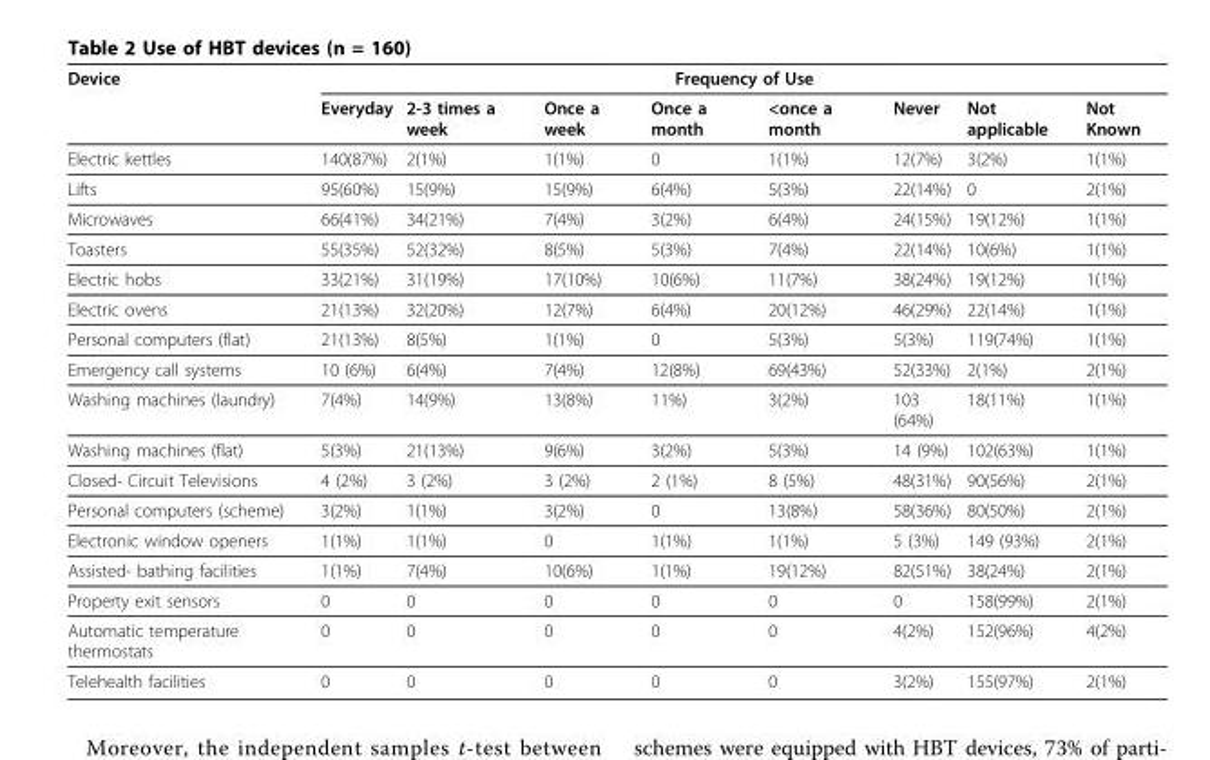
<table><thead><tr><td rowspan="2">Device</td><td colspan="8">Frequency of Use</td></tr><tr><td>Everyday</td><td>2-3 times a week</td><td>Once a week</td><td>Once a month</td><td>&lt;once a month</td><td>Never</td><td>Not applicable</td><td>Not Known</td></tr></thead><tbody><tr><td>Electric kettles</td><td>140(87%)</td><td>2(1%)</td><td>1(1%)</td><td>0</td><td>1(1%)</td><td>12(7%)</td><td>3(2%)</td><td>1(1%)</td></tr><tr><td>Lifts</td><td>95(60%)</td><td>15(9%)</td><td>15(9%)</td><td>6(4%)</td><td>5(3%)</td><td>22(14%)</td><td>0</td><td>2(1%)</td></tr><tr><td>Microwaves</td><td>66(41%)</td><td>34(21%)</td><td>7(4%)</td><td>3(2%)</td><td>6(4%)</td><td>24(15%)</td><td>19(12%)</td><td>1(1%)</td></tr><tr><td>Toasters</td><td>55(35%)</td><td>52(32%)</td><td>8(5%)</td><td>5(3%)</td><td>7(4%)</td><td>22(14%)</td><td>10(6%)</td><td>1(1%)</td></tr><tr><td>Electric hobs</td><td>33(21%)</td><td>31(19%)</td><td>17(10%)</td><td>10(6%)</td><td>11(7%)</td><td>38(24%)</td><td>19(12%)</td><td>1(1%)</td></tr><tr><td>Electric ovens</td><td>21(13%)</td><td>32(20%)</td><td>12(7%)</td><td>6(4%)</td><td>20(12%)</td><td>46(29%)</td><td>22(14%)</td><td>1(1%)</td></tr><tr><td>Personal computers (flat)</td><td>21(13%)</td><td>8(5%)</td><td>1(1%)</td><td>0</td><td>5(3%)</td><td>5(3%)</td><td>119(74%)</td><td>1(1%)</td></tr><tr><td>Emergency call systems</td><td>10 (6%)</td><td>6(4%)</td><td>7(4%)</td><td>12(8%)</td><td>69(43%)</td><td>52(33%)</td><td>2(1%)</td><td>2(1%)</td></tr><tr><td>Washing machines (laundry)</td><td>7(4%)</td><td>14(9%)</td><td>13(8%)</td><td>11%)</td><td>3(2%)</td><td>103 (64%)</td><td>18(11%)</td><td>1(1%)</td></tr><tr><td>Washing machines (flat)</td><td>5(3%)</td><td>21(13%)</td><td>9(6%)</td><td>3(2%)</td><td>5(3%)</td><td>14 (9%)</td><td>102(63%)</td><td>1(1%)</td></tr><tr><td>Closed- Circuit Televisions</td><td>4 (2%)</td><td>3 (2%)</td><td>3 (2%)</td><td>2 (1%)</td><td>8 (5%)</td><td>48(31%)</td><td>90(56%)</td><td>2(1%)</td></tr><tr><td>Personal computers (scheme)</td><td>3(2%)</td><td>1(1%)</td><td>3(2%)</td><td>0</td><td>13(8%)</td><td>58(36%)</td><td>80(50%)</td><td>2(1%)</td></tr><tr><td>Electronic window openers</td><td>1(1%)</td><td>1(1%)</td><td>0</td><td>1(1%)</td><td>1(1%)</td><td>5 (3%)</td><td>149 (93%)</td><td>2(1%)</td></tr><tr><td>Assisted- bathing facilities</td><td>1(1%)</td><td>7(4%)</td><td>10(6%)</td><td>1(1%)</td><td>19(12%)</td><td>82(51%)</td><td>38(24%)</td><td>2(1%)</td></tr><tr><td>Property exit sensors</td><td>0</td><td>0</td><td>0</td><td>0</td><td>0</td><td>0</td><td>158(99%)</td><td>2(1%)</td></tr><tr><td>Automatic temperature thermostats</td><td>0</td><td>0</td><td>0</td><td>0</td><td>0</td><td>4(2%)</td><td>152(96%)</td><td>4(2%)</td></tr><tr><td>Telehealth facilities</td><td>0</td><td>0</td><td>0</td><td>0</td><td>0</td><td>3(2%)</td><td>155(97%)</td><td>2(1%)</td></tr></tbody></table>